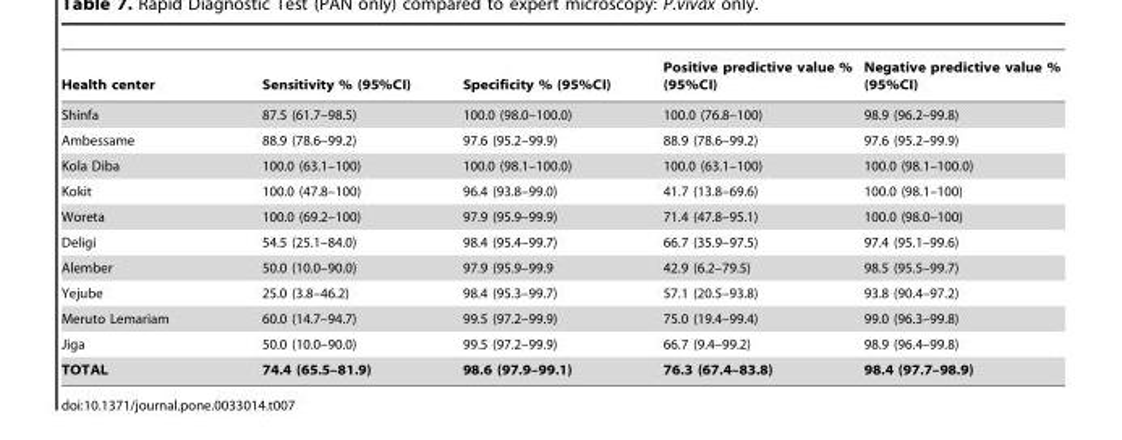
<table><thead><tr><td>Health center</td><td>Sensitivity % (95%CI)</td><td>Specificity % (95%CI)</td><td>Positive predictive value % (95%CI)</td><td>Negative predictive value % (95%CI)</td></tr></thead><tbody><tr><td>Shinfa</td><td>87.5 (61.7–98.5)</td><td>100.0 (98.0–100.0)</td><td>100.0 (76.8–100)</td><td>98.9 (96.2–99.8)</td></tr><tr><td>Ambessame</td><td>88.9 (78.6–99.2)</td><td>97.6 (95.2–99.9)</td><td>88.9 (78.6–99.2)</td><td>97.6 (95.2–99.9)</td></tr><tr><td>Kola Diba</td><td>100.0 (63.1–100)</td><td>100.0 (98.1–100.0)</td><td>100.0 (63.1–100)</td><td>100.0 (98.1–100.0)</td></tr><tr><td>Kokit</td><td>100.0 (47.8–100)</td><td>96.4 (93.8–99.0)</td><td>41.7 (13.8–69.6)</td><td>100.0 (98.1–100)</td></tr><tr><td>Woreta</td><td>100.0 (69.2–100)</td><td>97.9 (95.9–99.9)</td><td>71.4 (47.8–95.1)</td><td>100.0 (98.0–100)</td></tr><tr><td>Deligi</td><td>54.5 (25.1–84.0)</td><td>98.4 (95.4–99.7)</td><td>66.7 (35.9–97.5)</td><td>97.4 (95.1–99.6)</td></tr><tr><td>Alember</td><td>50.0 (10.0–90.0)</td><td>97.9 (95.9–99.9</td><td>42.9 (6.2–79.5)</td><td>98.5 (95.5–99.7)</td></tr><tr><td>Yejube</td><td>25.0 (3.8–46.2)</td><td>98.4 (95.3–99.7)</td><td>57.1 (20.5–93.8)</td><td>93.8 (90.4–97.2)</td></tr><tr><td>Meruto Lemariam</td><td>60.0 (14.7–94.7)</td><td>99.5 (97.2–99.9)</td><td>75.0 (19.4–99.4)</td><td>99.0 (96.3–99.8)</td></tr><tr><td>Jiga</td><td>50.0 (10.0–90.0)</td><td>99.5 (97.2–99.9)</td><td>66.7 (9.4–99.2)</td><td>98.9 (96.4–99.8)</td></tr><tr><td>TOTAL</td><td>74.4 (65.5–81.9)</td><td>98.6 (97.9–99.1)</td><td>76.3 (67.4–83.8)</td><td>98.4 (97.7–98.9)</td></tr></tbody></table>